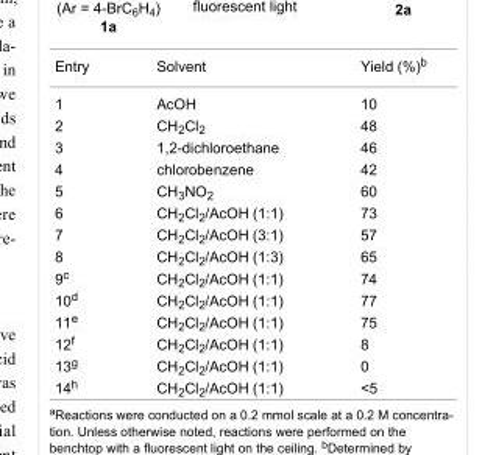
<table><tbody><tr><td>Entry</td><td>Solvent</td><td>Yield (%)<sup>b</sup></td></tr><tr><td>1</td><td>AcOH</td><td>10</td></tr><tr><td>2</td><td>CH<sub>2</sub>Cl<sub>2</sub></td><td>48</td></tr><tr><td>3</td><td>1,2-dichloroethane</td><td>46</td></tr><tr><td>4</td><td>chlorobenzene</td><td>42</td></tr><tr><td>5</td><td>CH<sub>3</sub>NO<sub>2</sub></td><td>60</td></tr><tr><td>6</td><td>CH<sub>2</sub>Cl<sub>2</sub>/AcOH (1:1)</td><td>73</td></tr><tr><td>7</td><td>CH<sub>2</sub>Cl<sub>2</sub>/AcOH (3:1)</td><td>57</td></tr><tr><td>8</td><td>CH<sub>2</sub>Cl<sub>2</sub>/AcOH (1:3)</td><td>65</td></tr><tr><td>9<sup>c</sup></td><td>CH<sub>2</sub>Cl<sub>2</sub>/AcOH (1:1)</td><td>74</td></tr><tr><td>10<sup>d</sup></td><td>CH<sub>2</sub>Cl<sub>2</sub>/AcOH (1:1)</td><td>77</td></tr><tr><td>11<sup>e</sup></td><td>CH<sub>2</sub>Cl<sub>2</sub>/AcOH (1:1)</td><td>75</td></tr><tr><td>12<sup>f</sup></td><td>CH<sub>2</sub>Cl<sub>2</sub>/AcOH (1:1)</td><td>8</td></tr><tr><td>13<sup>g</sup></td><td>CH<sub>2</sub>Cl<sub>2</sub>/AcOH (1:1)</td><td>0</td></tr><tr><td>14<sup>h</sup></td><td>CH<sub>2</sub>Cl<sub>2</sub>/AcOH (1:1)</td><td>&lt;5</td></tr></tbody></table>